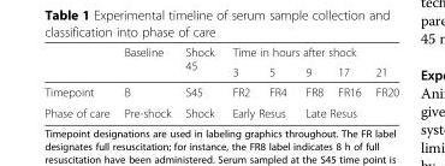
<table><thead><tr><td rowspan="2"></td><td rowspan="2">Baseline</td><td rowspan="2">Shock 45</td><td colspan="5">Time in hours after shock</td></tr><tr><td>3</td><td>5</td><td>9</td><td>17</td><td>21</td></tr></thead><tbody><tr><td>Timepoint</td><td>B</td><td>S45</td><td>FR2</td><td>FR4</td><td>FR8</td><td>FR16</td><td>FR20</td></tr><tr><td>Phase of care</td><td>Pre-shock</td><td>Shock</td><td colspan="2">Early Resus</td><td colspan="3">Late Resus</td></tr></tbody></table>